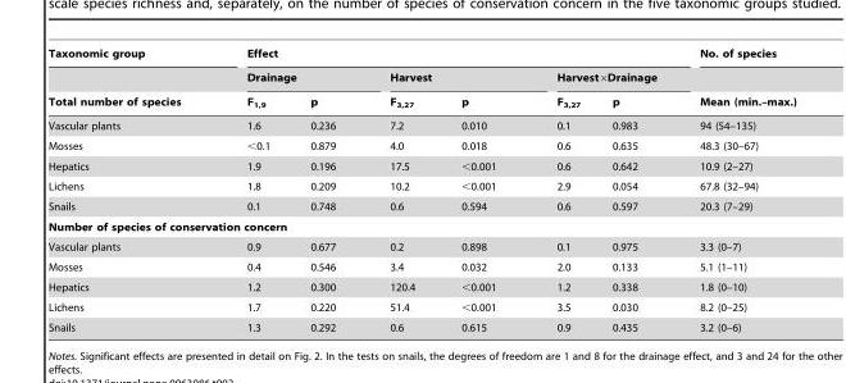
<table><thead><tr><td rowspan="3">Taxonomic group Total number of species</td><td colspan="6">Effect</td><td rowspan="3">No. of species Mean (min.–max.)</td></tr><tr><td colspan="2">Drainage</td><td colspan="2">Harvest</td><td colspan="2">Harvest×Drainage</td></tr><tr><td>F<sub>1,9</sub></td><td>p</td><td>F<sub>3,27</sub></td><td>p</td><td>F<sub>3,27</sub></td><td>p</td></tr></thead><tbody><tr><td>Vascular plants</td><td>1.6</td><td>0.236</td><td>7.2</td><td>0.010</td><td>0.1</td><td>0.983</td><td>94 (54–135)</td></tr><tr><td>Mosses</td><td>&lt;0.1</td><td>0.879</td><td>4.0</td><td>0.018</td><td>0.6</td><td>0.635</td><td>48.3 (30–67)</td></tr><tr><td>Hepatics</td><td>1.9</td><td>0.196</td><td>17.5</td><td>&lt;0.001</td><td>0.6</td><td>0.642</td><td>10.9 (2–27)</td></tr><tr><td>Lichens</td><td>1.8</td><td>0.209</td><td>10.2</td><td>&lt;0.001</td><td>2.9</td><td>0.054</td><td>67.8 (32–94)</td></tr><tr><td>Snails</td><td>0.1</td><td>0.748</td><td>0.6</td><td>0.594</td><td>0.6</td><td>0.597</td><td>20.3 (7–29)</td></tr><tr><td colspan="8">Number of species of conservation concern</td></tr><tr><td>Vascular plants</td><td>0.9</td><td>0.677</td><td>0.2</td><td>0.898</td><td>0.1</td><td>0.975</td><td>3.3 (0–7)</td></tr><tr><td>Mosses</td><td>0.4</td><td>0.546</td><td>3.4</td><td>0.032</td><td>2.0</td><td>0.133</td><td>5.1 (1–11)</td></tr><tr><td>Hepatics</td><td>1.2</td><td>0.300</td><td>120.4</td><td>&lt;0.001</td><td>1.2</td><td>0.338</td><td>1.8 (0–10)</td></tr><tr><td>Lichens</td><td>1.7</td><td>0.220</td><td>51.4</td><td>&lt;0.001</td><td>3.5</td><td>0.030</td><td>8.2 (0–25)</td></tr><tr><td>Snails</td><td>1.3</td><td>0.292</td><td>0.6</td><td>0.615</td><td>0.9</td><td>0.435</td><td>3.2 (0–6)</td></tr></tbody></table>